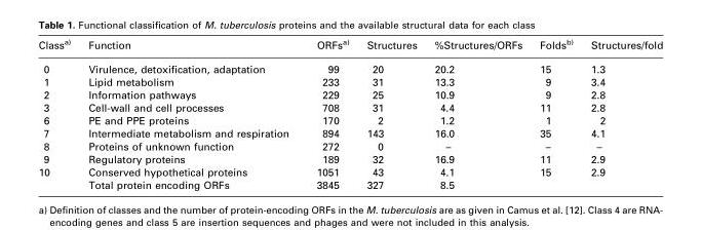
<table><thead><tr><td>Classa)</td><td>Function</td><td>ORFsa)</td><td>Structures</td><td>%Structures/ORFs</td><td>Foldsb)</td><td>Structures/fold</td></tr></thead><tbody><tr><td>0</td><td>Virulence, detoxification, adaptation</td><td>99</td><td>20</td><td>20.2</td><td>15</td><td>1.3</td></tr><tr><td>1</td><td>Lipid metabolism</td><td>233</td><td>31</td><td>13.3</td><td>9</td><td>3.4</td></tr><tr><td>2</td><td>Information pathways</td><td>229</td><td>25</td><td>10.9</td><td>9</td><td>2.8</td></tr><tr><td>3</td><td>Cell-wall and cell processes</td><td>708</td><td>31</td><td>4.4</td><td>11</td><td>2.8</td></tr><tr><td>6</td><td>PE and PPE proteins</td><td>170</td><td>2</td><td>1.2</td><td>1</td><td>2</td></tr><tr><td>7</td><td>Intermediate metabolism and respiration</td><td>894</td><td>143</td><td>16.0</td><td>35</td><td>4.1</td></tr><tr><td>8</td><td>Proteins of unknown function</td><td>272</td><td>0</td><td>–</td><td>–</td><td>–</td></tr><tr><td>9</td><td>Regulatory proteins</td><td>189</td><td>32</td><td>16.9</td><td>11</td><td>2.9</td></tr><tr><td rowspan="2">10</td><td>Conserved hypothetical proteins</td><td>1051</td><td>43</td><td>4.1</td><td>15</td><td>2.9</td></tr><tr><td>Total protein encoding ORFs</td><td>3845</td><td>327</td><td>8.5</td><td></td><td></td></tr></tbody></table>